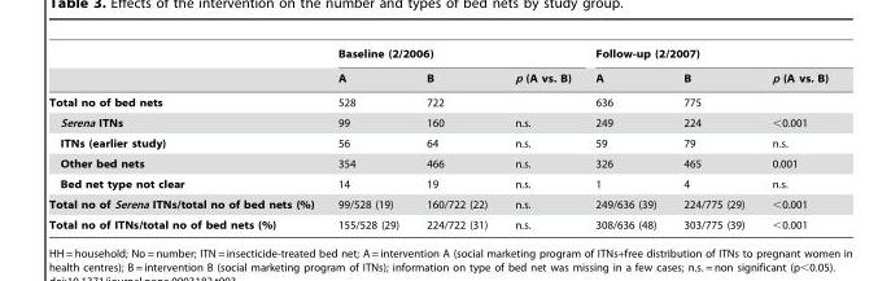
<table><thead><tr><td rowspan="2"></td><td colspan="3">Baseline (2/2006)</td><td colspan="3">Follow-up (2/2007)</td></tr><tr><td>A</td><td>B</td><td>p (A vs. B)</td><td>A</td><td>B</td><td>p (A vs. B)</td></tr></thead><tbody><tr><td>Total no of bed nets</td><td>528</td><td>722</td><td></td><td>636</td><td>775</td><td></td></tr><tr><td>Serena ITNs</td><td>99</td><td>160</td><td>n.s.</td><td>249</td><td>224</td><td>&lt;0.001</td></tr><tr><td>ITNs (earlier study)</td><td>56</td><td>64</td><td>n.s.</td><td>59</td><td>79</td><td>n.s.</td></tr><tr><td>Other bed nets</td><td>354</td><td>466</td><td>n.s.</td><td>326</td><td>465</td><td>0.001</td></tr><tr><td>Bed net type not clear</td><td>14</td><td>19</td><td>n.s.</td><td>1</td><td>4</td><td>n.s.</td></tr><tr><td>Total no of Serena ITNs/total no of bed nets (%)</td><td>99/528 (19)</td><td>160/722 (22)</td><td>n.s.</td><td>249/636 (39)</td><td>224/775 (29)</td><td>&lt;0.001</td></tr><tr><td>Total no of ITNs/total no of bed nets (%)</td><td>155/528 (29)</td><td>224/722 (31)</td><td>n.s.</td><td>308/636 (48)</td><td>303/775 (39)</td><td>&lt;0.001</td></tr></tbody></table>